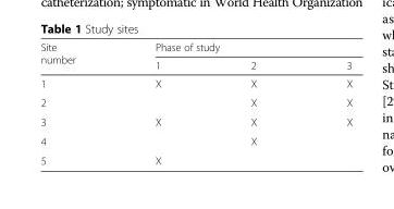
<table><thead><tr><td rowspan="2">Site number</td><td colspan="3">Phase of study</td></tr><tr><td>1</td><td>2</td><td>3</td></tr></thead><tbody><tr><td>1</td><td>X</td><td>X</td><td>X</td></tr><tr><td>2</td><td></td><td>X</td><td>X</td></tr><tr><td>3</td><td>X</td><td>X</td><td>X</td></tr><tr><td>4</td><td></td><td>X</td><td></td></tr><tr><td>5</td><td>X</td><td></td><td></td></tr></tbody></table>